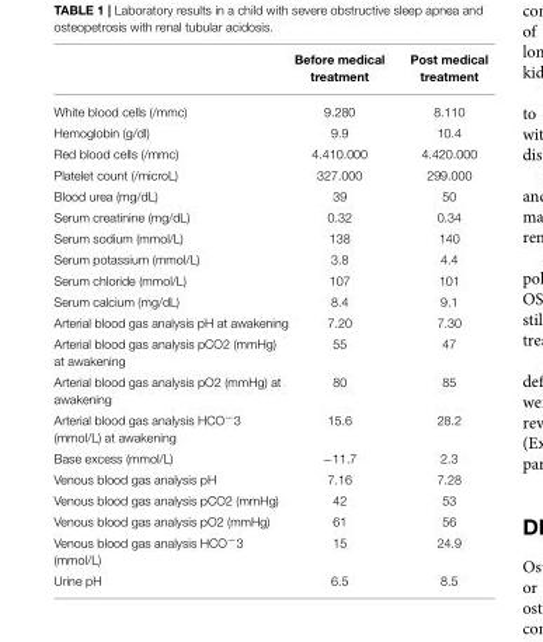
<table><thead><tr><td></td><td>Before medical treatment</td><td>Post medical treatment</td></tr></thead><tbody><tr><td>White blood cells (/mmc)</td><td>9.280</td><td>8.110</td></tr><tr><td>Hemoglobin (g/dl)</td><td>9.9</td><td>10.4</td></tr><tr><td>Red blood cells (/mmc)</td><td>4.410.000</td><td>4.420.000</td></tr><tr><td>Platelet count (/microL)</td><td>327.000</td><td>299.000</td></tr><tr><td>Blood urea (mg/dL)</td><td>39</td><td>50</td></tr><tr><td>Serum creatinine (mg/dL)</td><td>0.32</td><td>0.34</td></tr><tr><td>Serum sodium (mmol/L)</td><td>138</td><td>140</td></tr><tr><td>Serum potassium (mmol/L)</td><td>3.8</td><td>4.4</td></tr><tr><td>Serum chloride (mmol/L)</td><td>107</td><td>101</td></tr><tr><td>Serum calcium (mg/dL)</td><td>8.4</td><td>9.1</td></tr><tr><td>Arterial blood gas analysis pH at awakening</td><td>7.20</td><td>7.30</td></tr><tr><td>Arterial blood gas analysis pCO2 (mmHg) at awakening</td><td>55</td><td>47</td></tr><tr><td>Arterial blood gas analysis pO2 (mmHg) at awakening</td><td>80</td><td>85</td></tr><tr><td>Arterial blood gas analysis HCO<sup>−</sup>3 (mmol/L) at awakening</td><td>15.6</td><td>28.2</td></tr><tr><td>Base excess (mmol/L)</td><td>−11.7</td><td>2.3</td></tr><tr><td>Venous blood gas analysis pH</td><td>7.16</td><td>7.28</td></tr><tr><td>Venous blood gas analysis pCO2 (mmHg)</td><td>42</td><td>53</td></tr><tr><td>Venous blood gas analysis pO2 (mmHg)</td><td>61</td><td>56</td></tr><tr><td>Venous blood gas analysis HCO<sup>−</sup>3 (mmol/L)</td><td>15</td><td>24.9</td></tr><tr><td>Urine pH</td><td>6.5</td><td>8.5</td></tr></tbody></table>